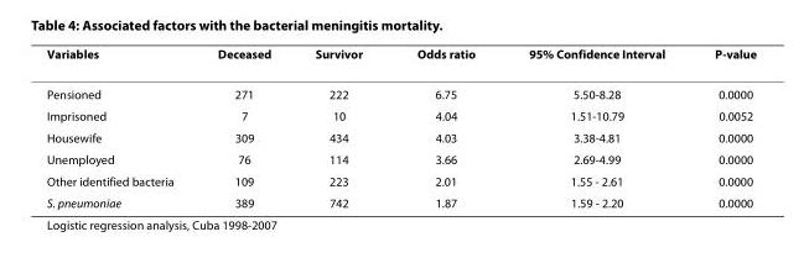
<table><thead><tr><td>Variables</td><td>Deceased</td><td>Survivor</td><td>Odds ratio</td><td>95% Confidence Interval</td><td>P-value</td></tr></thead><tbody><tr><td>Pensioned</td><td>271</td><td>222</td><td>6.75</td><td>5.50-8.28</td><td>0.0000</td></tr><tr><td>Imprisoned</td><td>7</td><td>10</td><td>4.04</td><td>1.51-10.79</td><td>0.0052</td></tr><tr><td>Housewife</td><td>309</td><td>434</td><td>4.03</td><td>3.38-4.81</td><td>0.0000</td></tr><tr><td>Unemployed</td><td>76</td><td>114</td><td>3.66</td><td>2.69-4.99</td><td>0.0000</td></tr><tr><td>Other identified bacteria</td><td>109</td><td>223</td><td>2.01</td><td>1.55 - 2.61</td><td>0.0000</td></tr><tr><td>S. pneumoniae</td><td>389</td><td>742</td><td>1.87</td><td>1.59 - 2.20</td><td>0.0000</td></tr></tbody></table>